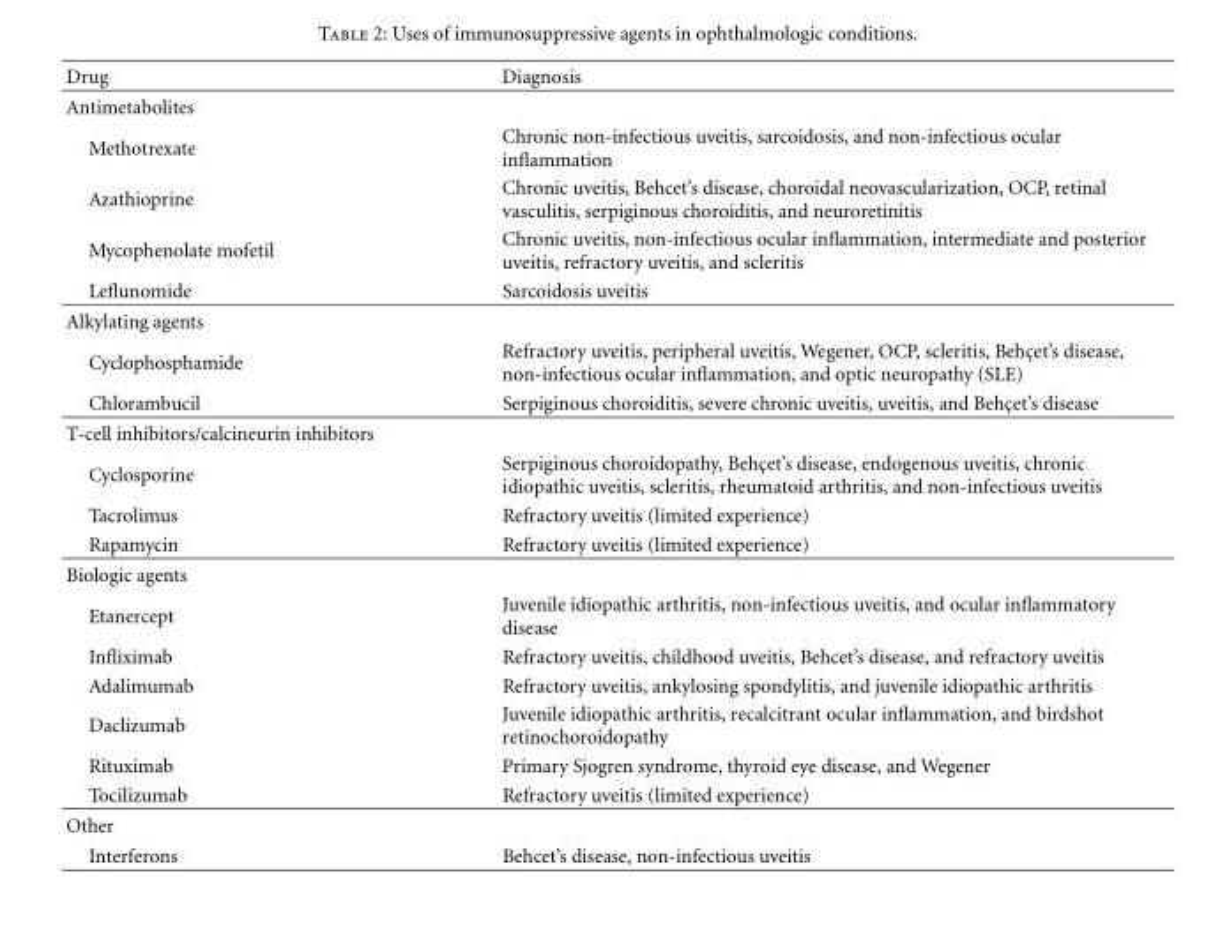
<table><thead><tr><td>Drug</td><td>Diagnosis</td></tr></thead><tbody><tr><td colspan="2">Antimetabolites</td></tr><tr><td>Methotrexate</td><td>Chronic non-infectious uveitis, sarcoidosis, and non-infectious ocular inflammation</td></tr><tr><td>Azathioprine</td><td>Chronic uveitis, Behcet’s disease, choroidal neovascularization, OCP, retinal vasculitis, serpiginous choroiditis, and neuroretinitis</td></tr><tr><td>Mycophenolate mofetil</td><td>Chronic uveitis, non-infectious ocular inflammation, intermediate and posterior uveitis, refractory uveitis, and scleritis</td></tr><tr><td>Leflunomide</td><td>Sarcoidosis uveitis</td></tr><tr><td colspan="2">Alkylating agents</td></tr><tr><td>Cyclophosphamide</td><td>Refractory uveitis, peripheral uveitis, Wegener, OCP, scleritis, Behc¸et’s disease, non-infectious ocular inflammation, and optic neuropathy (SLE)</td></tr><tr><td>Chlorambucil</td><td>Serpiginous choroiditis, severe chronic uveitis, uveitis, and Behc¸et’s disease</td></tr><tr><td colspan="2">T-cell inhibitors/calcineurin inhibitors</td></tr><tr><td>Cyclosporine</td><td>Serpiginous choroidopathy, Behc¸et’s disease, endogenous uveitis, chronic idiopathic uveitis, scleritis, rheumatoid arthritis, and non-infectious uveitis</td></tr><tr><td>Tacrolimus</td><td>Refractory uveitis (limited experience)</td></tr><tr><td>Rapamycin</td><td>Refractory uveitis (limited experience)</td></tr><tr><td colspan="2">Biologic agents</td></tr><tr><td>Etanercept</td><td>Juvenile idiopathic arthritis, non-infectious uveitis, and ocular inflammatory disease</td></tr><tr><td>Infliximab</td><td>Refractory uveitis, childhood uveitis, Behcet’s disease, and refractory uveitis</td></tr><tr><td>Adalimumab</td><td>Refractory uveitis, ankylosing spondylitis, and juvenile idiopathic arthritis</td></tr><tr><td>Daclizumab</td><td>Juvenile idiopathic arthritis, recalcitrant ocular inflammation, and birdshot retinochoroidopathy</td></tr><tr><td>Rituximab</td><td>Primary Sjogren syndrome, thyroid eye disease, and Wegener</td></tr><tr><td>Tocilizumab</td><td>Refractory uveitis (limited experience)</td></tr><tr><td colspan="2">Other</td></tr><tr><td>Interferons</td><td>Behcet’s disease, non-infectious uveitis</td></tr></tbody></table>